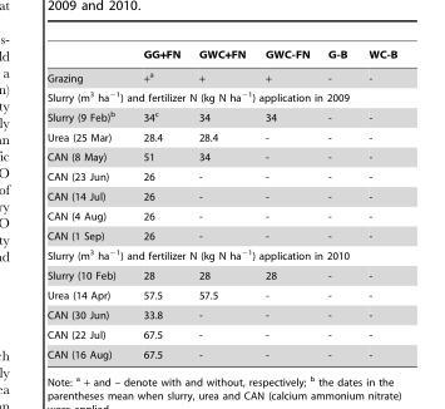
<table><thead><tr><td></td><td>GG+FN</td><td>GWC+FN</td><td>GWC-FN</td><td>G-B</td><td>WC-B</td></tr></thead><tbody><tr><td>Grazing</td><td>+<sup>a</sup></td><td>+</td><td>+</td><td>-</td><td>-</td></tr><tr><td colspan="6">Slurry (m<sup>3</sup> ha<sup>−1</sup>) and fertilizer N (kg N ha<sup>−1</sup>) application in 2009</td></tr><tr><td>Slurry (9 Feb)<sup>b</sup></td><td>34<sup>c</sup></td><td>34</td><td>34</td><td>-</td><td>-</td></tr><tr><td>Urea (25 Mar)</td><td>28.4</td><td>28.4</td><td>-</td><td>-</td><td>-</td></tr><tr><td>CAN (8 May)</td><td>51</td><td>34</td><td>-</td><td>-</td><td>-</td></tr><tr><td>CAN (23 Jun)</td><td>26</td><td>-</td><td>-</td><td>-</td><td>-</td></tr><tr><td>CAN (14 Jul)</td><td>26</td><td>-</td><td>-</td><td>-</td><td>-</td></tr><tr><td>CAN (4 Aug)</td><td>26</td><td>-</td><td>-</td><td>-</td><td>-</td></tr><tr><td>CAN (1 Sep)</td><td>26</td><td>-</td><td>-</td><td>-</td><td>-</td></tr><tr><td colspan="6">Slurry (m<sup>3</sup> ha<sup>−1</sup>) and fertilizer N (kg N ha<sup>−1</sup>) application in 2010</td></tr><tr><td>Slurry (10 Feb)</td><td>28</td><td>28</td><td>28</td><td>-</td><td>-</td></tr><tr><td>Urea (14 Apr)</td><td>57.5</td><td>57.5</td><td>-</td><td>-</td><td>-</td></tr><tr><td>CAN (30 Jun)</td><td>33.8</td><td>-</td><td>-</td><td>-</td><td>-</td></tr><tr><td>CAN (22 Jul)</td><td>67.5</td><td>-</td><td>-</td><td>-</td><td>-</td></tr><tr><td>CAN (16 Aug)</td><td>67.5</td><td>-</td><td>-</td><td>-</td><td>-</td></tr></tbody></table>